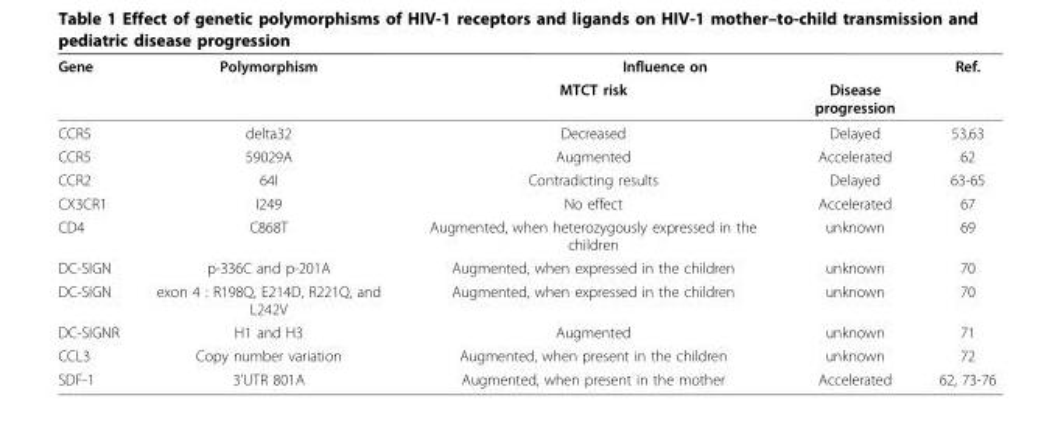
<table><thead><tr><td rowspan="2">Gene</td><td rowspan="2">Polymorphism</td><td colspan="2">Influence on</td><td rowspan="2">Ref.</td></tr><tr><td>MTCT risk</td><td>Disease progression</td></tr></thead><tbody><tr><td>CCR5</td><td>delta32</td><td>Decreased</td><td>Delayed</td><td>53,63</td></tr><tr><td>CCR5</td><td>59029A</td><td>Augmented</td><td>Accelerated</td><td>62</td></tr><tr><td>CCR2</td><td>64I</td><td>Contradicting results</td><td>Delayed</td><td>63-65</td></tr><tr><td>CX3CR1</td><td>I249</td><td>No effect</td><td>Accelerated</td><td>67</td></tr><tr><td>CD4</td><td>C868T</td><td>Augmented, when heterozygously expressed in the children</td><td>unknown</td><td>69</td></tr><tr><td>DC-SIGN</td><td>p-336C and p-201A</td><td>Augmented, when expressed in the children</td><td>unknown</td><td>70</td></tr><tr><td>DC-SIGN</td><td>exon 4 : R198Q, E214D, R221Q, and L242V</td><td>Augmented, when expressed in the children</td><td>unknown</td><td>70</td></tr><tr><td>DC-SIGNR</td><td>H1 and H3</td><td>Augmented</td><td>unknown</td><td>71</td></tr><tr><td>CCL3</td><td>Copy number variation</td><td>Augmented, when present in the children</td><td>unknown</td><td>72</td></tr><tr><td>SDF-1</td><td>3’UTR 801A</td><td>Augmented, when present in the mother</td><td>Accelerated</td><td>62, 73-76</td></tr></tbody></table>